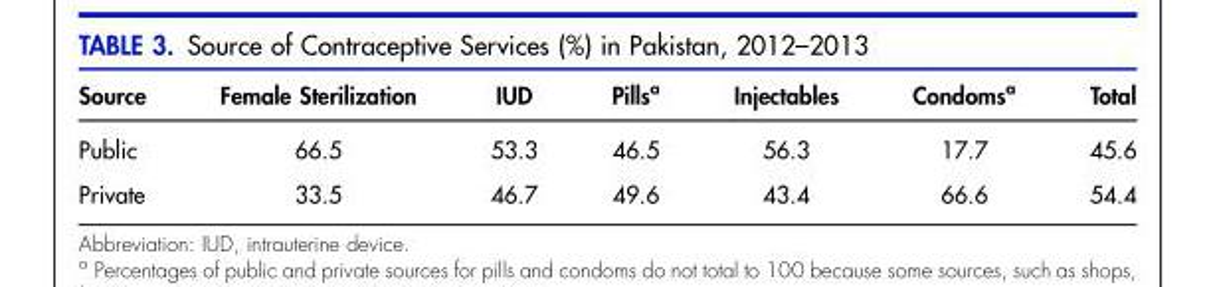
<table><thead><tr><td>Source</td><td>Female Sterilization</td><td>IUD</td><td>Pills<sup>a</sup></td><td>Injectables</td><td>Condoms<sup>a</sup></td><td>Total</td></tr></thead><tbody><tr><td>Public</td><td>66.5</td><td>53.3</td><td>46.5</td><td>56.3</td><td>17.7</td><td>45.6</td></tr><tr><td>Private</td><td>33.5</td><td>46.7</td><td>49.6</td><td>43.4</td><td>66.6</td><td>54.4</td></tr></tbody></table>